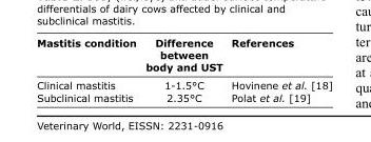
<table><thead><tr><td>Mastitis condition</td><td>Difference between body and UST</td><td>References</td></tr></thead><tbody><tr><td>Clinical mastitis</td><td>1-1.5°C</td><td>Hovinene et al. [18]</td></tr><tr><td>Subclinical mastitis</td><td>2.35°C</td><td>Polat et al. [19]</td></tr></tbody></table>